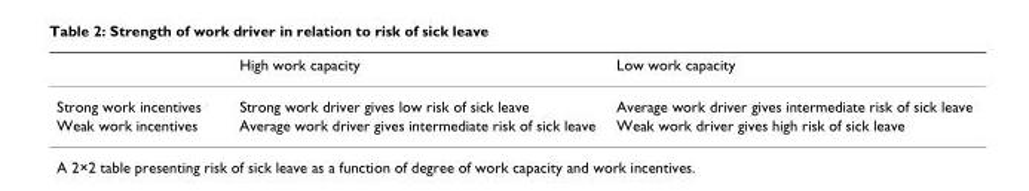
<table><thead><tr><td></td><td>High work capacity</td><td>Low work capacity</td></tr></thead><tbody><tr><td>Strong work incentives</td><td>Strong work driver gives low risk of sick leave</td><td>Average work driver gives intermediate risk of sick leave</td></tr><tr><td>Weak work incentives</td><td>Average work driver gives intermediate risk of sick leave</td><td>Weak work driver gives high risk of sick leave</td></tr></tbody></table>